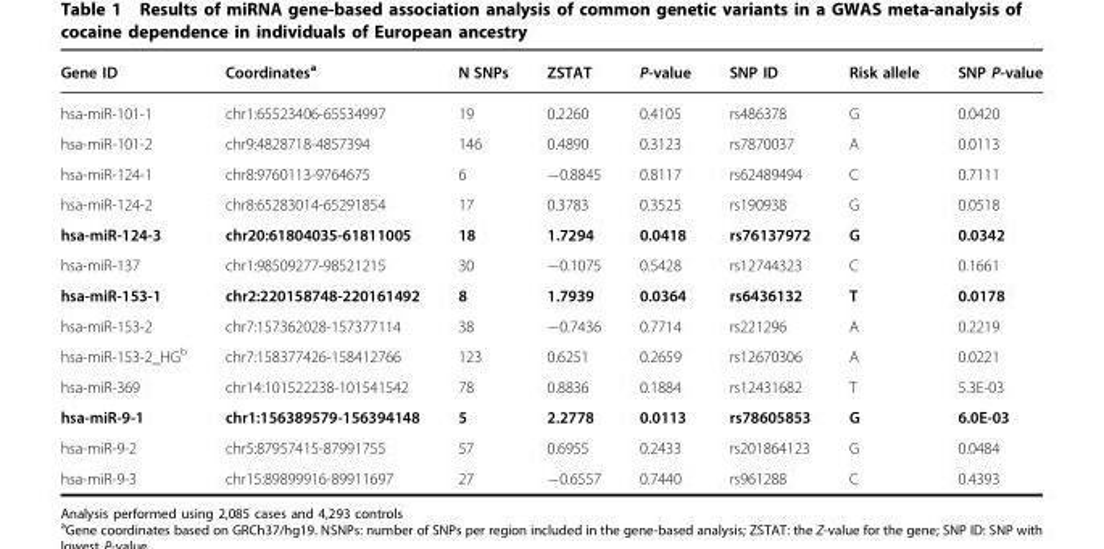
<table><thead><tr><td>Gene ID</td><td>Coordinates<sup>a</sup></td><td>N SNPs</td><td>ZSTAT</td><td>P-value</td><td>SNP ID</td><td>Risk allele</td><td>SNP P-value</td></tr></thead><tbody><tr><td>hsa-miR-101-1</td><td>chr1:65523406-65534997</td><td>19</td><td>0.2260</td><td>0.4105</td><td>rs486378</td><td>G</td><td>0.0420</td></tr><tr><td>hsa-miR-101-2</td><td>chr9:4828718-4857394</td><td>146</td><td>0.4890</td><td>0.3123</td><td>rs7870037</td><td>A</td><td>0.0113</td></tr><tr><td>hsa-miR-124-1</td><td>chr8:9760113-9764675</td><td>6</td><td>−0.8845</td><td>0.8117</td><td>rs62489494</td><td>C</td><td>0.7111</td></tr><tr><td>hsa-miR-124-2</td><td>chr8:65283014-65291854</td><td>17</td><td>0.3783</td><td>0.3525</td><td>rs190938</td><td>G</td><td>0.0518</td></tr><tr><td>hsa-miR-124-3</td><td>chr20:61804035-61811005</td><td>18</td><td>1.7294</td><td>0.0418</td><td>rs76137972</td><td>G</td><td>0.0342</td></tr><tr><td>hsa-miR-137</td><td>chr1:98509277-98521215</td><td>30</td><td>−0.1075</td><td>0.5428</td><td>rs12744323</td><td>C</td><td>0.1661</td></tr><tr><td>hsa-miR-153-1</td><td>chr2:220158748-220161492</td><td>8</td><td>1.7939</td><td>0.0364</td><td>rs6436132</td><td>T</td><td>0.0178</td></tr><tr><td>hsa-miR-153-2</td><td>chr7:157362028-157377114</td><td>38</td><td>−0.7436</td><td>0.7714</td><td>rs221296</td><td>A</td><td>0.2219</td></tr><tr><td>hsa-miR-153-2_HG<sup>b</sup></td><td>chr7:158377426-158412766</td><td>123</td><td>0.6251</td><td>0.2659</td><td>rs12670306</td><td>A</td><td>0.0221</td></tr><tr><td>hsa-miR-369</td><td>chr14:101522238-101541542</td><td>78</td><td>0.8836</td><td>0.1884</td><td>rs12431682</td><td>T</td><td>5.3E-03</td></tr><tr><td>hsa-miR-9-1</td><td>chr1:156389579-156394148</td><td>5</td><td>2.2778</td><td>0.0113</td><td>rs78605853</td><td>G</td><td>6.0E-03</td></tr><tr><td>hsa-miR-9-2</td><td>chr5:87957415-87991755</td><td>57</td><td>0.6955</td><td>0.2433</td><td>rs201864123</td><td>G</td><td>0.0484</td></tr><tr><td>hsa-miR-9-3</td><td>chr15:89899916-89911697</td><td>27</td><td>−0.6557</td><td>0.7440</td><td>rs961288</td><td>C</td><td>0.4393</td></tr></tbody></table>